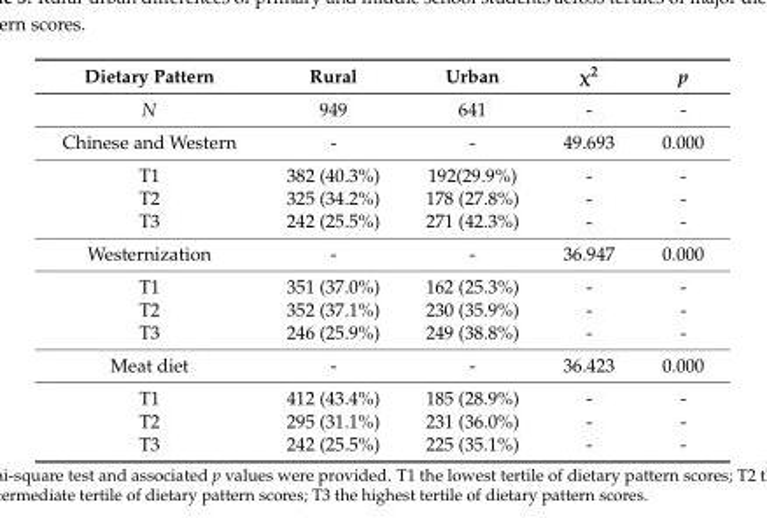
<table><thead><tr><td>Dietary Pattern</td><td>Rural</td><td>Urban</td><td>χ<sup>2</sup></td><td>p</td></tr></thead><tbody><tr><td>N</td><td>949</td><td>641</td><td>-</td><td>-</td></tr><tr><td>Chinese and Western</td><td>-</td><td>-</td><td>49.693</td><td>0.000</td></tr><tr><td>T1</td><td>382 (40.3%)</td><td>192(29.9%)</td><td>-</td><td>-</td></tr><tr><td>T2</td><td>325 (34.2%)</td><td>178 (27.8%)</td><td>-</td><td>-</td></tr><tr><td>T3</td><td>242 (25.5%)</td><td>271 (42.3%)</td><td>-</td><td>-</td></tr><tr><td>Westernization</td><td>-</td><td>-</td><td>36.947</td><td>0.000</td></tr><tr><td>T1</td><td>351 (37.0%)</td><td>162 (25.3%)</td><td>-</td><td>-</td></tr><tr><td>T2</td><td>352 (37.1%)</td><td>230 (35.9%)</td><td>-</td><td>-</td></tr><tr><td>T3</td><td>246 (25.9%)</td><td>249 (38.8%)</td><td>-</td><td>-</td></tr><tr><td>Meat diet</td><td>-</td><td>-</td><td>36.423</td><td>0.000</td></tr><tr><td>T1</td><td>412 (43.4%)</td><td>185 (28.9%)</td><td>-</td><td>-</td></tr><tr><td>T2</td><td>295 (31.1%)</td><td>231 (36.0%)</td><td>-</td><td>-</td></tr><tr><td>T3</td><td>242 (25.5%)</td><td>225 (35.1%)</td><td>-</td><td>-</td></tr></tbody></table>